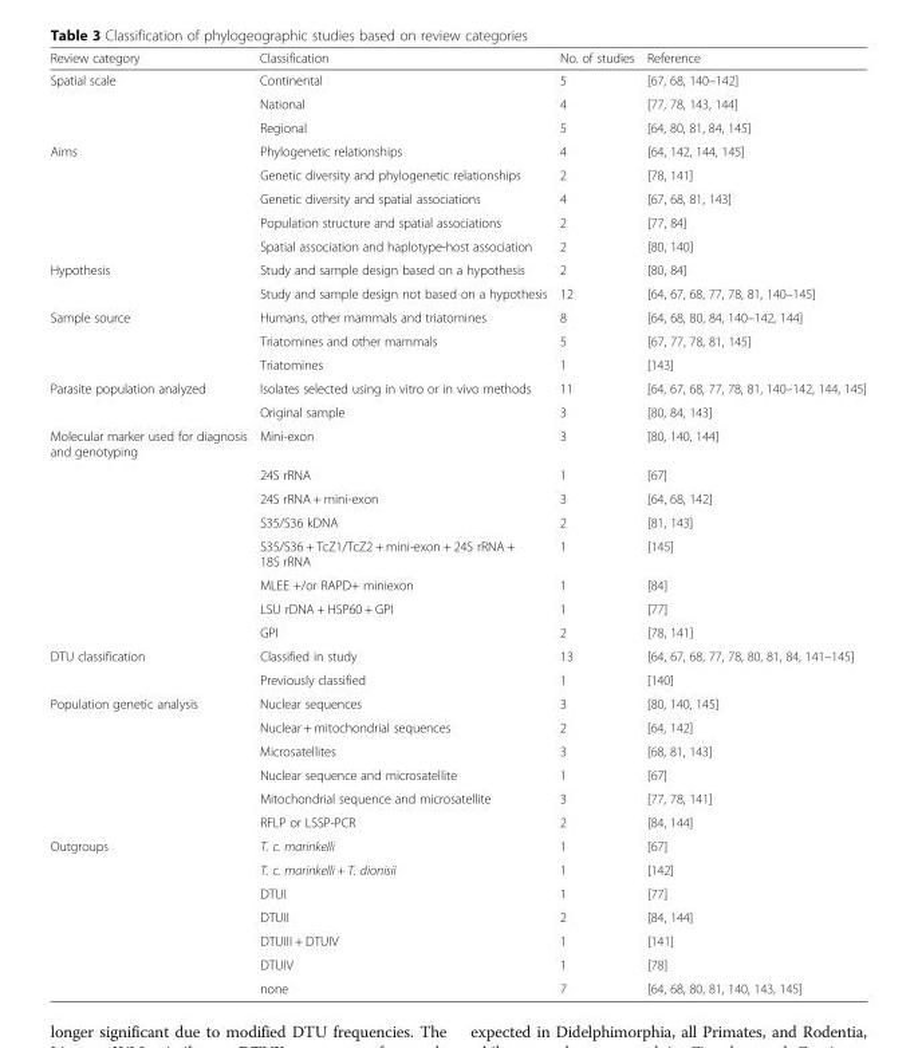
<table><thead><tr><td>Review category</td><td>Classification</td><td>No. of studies</td><td>Reference</td></tr></thead><tbody><tr><td rowspan="3">Spatial scale</td><td>Continental</td><td>5</td><td>[67, 68, 140–142]</td></tr><tr><td>National</td><td>4</td><td>[77, 78, 143, 144]</td></tr><tr><td>Regional</td><td>5</td><td>[64, 80, 81, 84, 145]</td></tr><tr><td rowspan="5">Aims</td><td>Phylogenetic relationships</td><td>4</td><td>[64, 142, 144, 145]</td></tr><tr><td>Genetic diversity and phylogenetic relationships</td><td>2</td><td>[78, 141]</td></tr><tr><td>Genetic diversity and spatial associations</td><td>4</td><td>[67, 68, 81, 143]</td></tr><tr><td>Population structure and spatial associations</td><td>2</td><td>[77, 84]</td></tr><tr><td>Spatial association and haplotype-host association</td><td>2</td><td>[80, 140]</td></tr><tr><td rowspan="2">Hypothesis</td><td>Study and sample design based on a hypothesis</td><td>2</td><td>[80, 84]</td></tr><tr><td>Study and sample design not based on a hypothesis</td><td>12</td><td>[64, 67, 68, 77, 78, 81, 140–145]</td></tr><tr><td rowspan="3">Sample source</td><td>Humans, other mammals and triatomines</td><td>8</td><td>[64, 68, 80, 84, 140–142, 144]</td></tr><tr><td>Triatomines and other mammals</td><td>5</td><td>[67, 77, 78, 81, 145]</td></tr><tr><td>Triatomines</td><td>1</td><td>[143]</td></tr><tr><td rowspan="2">Parasite population analyzed</td><td>Isolates selected using in vitro or in vivo methods</td><td>11</td><td>[64, 67, 68, 77, 78, 81, 140–142, 144, 145]</td></tr><tr><td>Original sample</td><td>3</td><td>[80, 84, 143]</td></tr><tr><td rowspan="8">Molecular marker used for diagnosis and genotyping</td><td>Mini-exon</td><td>3</td><td>[80, 140, 144]</td></tr><tr><td>24S rRNA</td><td>1</td><td>[67]</td></tr><tr><td>24S rRNA + mini-exon</td><td>3</td><td>[64, 68, 142]</td></tr><tr><td>S35/S36 kDNA</td><td>2</td><td>[81, 143]</td></tr><tr><td>S35/S36 + TcZ1/TcZ2 + mini-exon + 24S rRNA + 18S rRNA</td><td>1</td><td>[145]</td></tr><tr><td>MLEE +/or RAPD+ miniexon</td><td>1</td><td>[84]</td></tr><tr><td>LSU rDNA + HSP60 + GPI</td><td>1</td><td>[77]</td></tr><tr><td>GPI</td><td>2</td><td>[78, 141]</td></tr><tr><td rowspan="2">DTU classification</td><td>Classified in study</td><td>13</td><td>[64, 67, 68, 77, 78, 80, 81, 84, 141–145]</td></tr><tr><td>Previously classified</td><td>1</td><td>[140]</td></tr><tr><td rowspan="6">Population genetic analysis</td><td>Nuclear sequences</td><td>3</td><td>[80, 140, 145]</td></tr><tr><td>Nuclear + mitochondrial sequences</td><td>2</td><td>[64, 142]</td></tr><tr><td>Microsatellites</td><td>3</td><td>[68, 81, 143]</td></tr><tr><td>Nuclear sequence and microsatellite</td><td>1</td><td>[67]</td></tr><tr><td>Mitochondrial sequence and microsatellite</td><td>3</td><td>[77, 78, 141]</td></tr><tr><td>RFLP or LSSP-PCR</td><td>2</td><td>[84, 144]</td></tr><tr><td rowspan="7">Outgroups</td><td>T. c. marinkelli</td><td>1</td><td>[67]</td></tr><tr><td>T. c. marinkelli + T. dionisii</td><td>1</td><td>[142]</td></tr><tr><td>DTUI</td><td>1</td><td>[77]</td></tr><tr><td>DTUII</td><td>2</td><td>[84, 144]</td></tr><tr><td>DTUIII + DTUIV</td><td>1</td><td>[141]</td></tr><tr><td>DTUIV</td><td>1</td><td>[78]</td></tr><tr><td>none</td><td>7</td><td>[64, 68, 80, 81, 140, 143, 145]</td></tr></tbody></table>